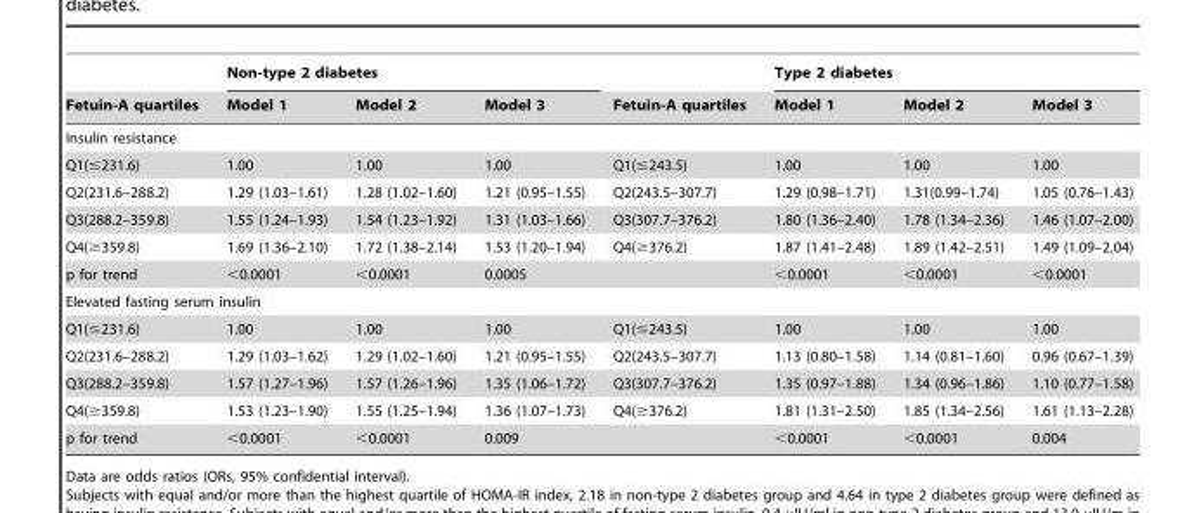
<table><thead><tr><td rowspan="2">Fetuin-A quartiles</td><td colspan="3">Non-type 2 diabetes</td><td rowspan="2">Fetuin-A quartiles</td><td colspan="3">Type 2 diabetes</td></tr><tr><td>Model 1</td><td>Model 2</td><td>Model 3</td><td>Model 1</td><td>Model 2</td><td>Model 3</td></tr></thead><tbody><tr><td colspan="8">Insulin resistance</td></tr><tr><td>Q1(≤231.6)</td><td>1.00</td><td>1.00</td><td>1.00</td><td>Q1(≤243.5)</td><td>1.00</td><td>1.00</td><td>1.00</td></tr><tr><td>Q2(231.6–288.2)</td><td>1.29 (1.03–1.61)</td><td>1.28 (1.02–1.60)</td><td>1.21 (0.95–1.55)</td><td>Q2(243.5–307.7)</td><td>1.29 (0.98–1.71)</td><td>1.31(0.99–1.74)</td><td>1.05 (0.76–1.43)</td></tr><tr><td>Q3(288.2–359.8)</td><td>1.55 (1.24–1.93)</td><td>1.54 (1.23–1.92)</td><td>1.31 (1.03–1.66)</td><td>Q3(307.7–376.2)</td><td>1.80 (1.36–2.40)</td><td>1.78 (1.34–2.36)</td><td>1.46 (1.07–2.00)</td></tr><tr><td>Q4(≥359.8)</td><td>1.69 (1.36–2.10)</td><td>1.72 (1.38–2.14)</td><td>1.53 (1.20–1.94)</td><td>Q4(≥376.2)</td><td>1.87 (1.41–2.48)</td><td>1.89 (1.42–2.51)</td><td>1.49 (1.09–2.04)</td></tr><tr><td>p for trend</td><td>&lt;0.0001</td><td>&lt;0.0001</td><td>0.0005</td><td></td><td>&lt;0.0001</td><td>&lt;0.0001</td><td>&lt;0.0001</td></tr><tr><td colspan="8">Elevated fasting serum insulin</td></tr><tr><td>Q1(≤231.6)</td><td>1.00</td><td>1.00</td><td>1.00</td><td>Q1(≤243.5)</td><td>1.00</td><td>1.00</td><td>1.00</td></tr><tr><td>Q2(231.6–288.2)</td><td>1.29 (1.03–1.62)</td><td>1.29 (1.02–1.60)</td><td>1.21 (0.95–1.55)</td><td>Q2(243.5–307.7)</td><td>1.13 (0.80–1.58)</td><td>1.14 (0.81–1.60)</td><td>0.96 (0.67–1.39)</td></tr><tr><td>Q3(288.2–359.8)</td><td>1.57 (1.27–1.96)</td><td>1.57 (1.26–1.96)</td><td>1.35 (1.06–1.72)</td><td>Q3(307.7–376.2)</td><td>1.35 (0.97–1.88)</td><td>1.34 (0.96–1.86)</td><td>1.10 (0.77–1.58)</td></tr><tr><td>Q4(≥359.8)</td><td>1.53 (1.23–1.90)</td><td>1.55 (1.25–1.94)</td><td>1.36 (1.07–1.73)</td><td>Q4(≥376.2)</td><td>1.81 (1.31–2.50)</td><td>1.85 (1.34–2.56)</td><td>1.61 (1.13–2.28)</td></tr><tr><td>p for trend</td><td>&lt;0.0001</td><td>&lt;0.0001</td><td>0.009</td><td></td><td>&lt;0.0001</td><td>&lt;0.0001</td><td>0.004</td></tr></tbody></table>